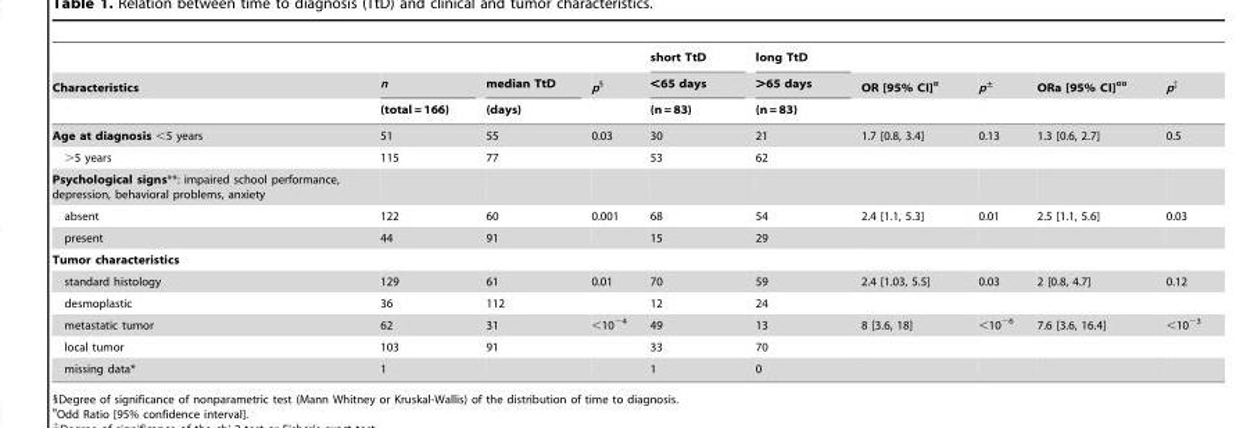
<table><thead><tr><td rowspan="3">Characteristics</td><td rowspan="3">n (total = 166)</td><td rowspan="3">median TtD (days)</td><td rowspan="3">p§</td><td rowspan="3">short TtD &lt;65 days (n = 83)</td><td rowspan="3">long TtD &gt;65 days (n = 83)</td><td rowspan="3">OR [95% CI]¤</td><td rowspan="3">p±</td><td rowspan="3">ORa [95% CI]¤¤</td><td rowspan="3">p‡</td></tr><tr></tr><tr></tr></thead><tbody><tr><td>Age at diagnosis &lt;5 years</td><td>51</td><td>55</td><td>0.03</td><td>30</td><td>21</td><td>1.7 [0.8, 3.4]</td><td>0.13</td><td>1.3 [0.6, 2.7]</td><td>0.5</td></tr><tr><td>&gt;5 years</td><td>115</td><td>77</td><td></td><td>53</td><td>62</td><td></td><td></td><td></td><td></td></tr><tr><td colspan="10">Psychological signs**: impaired school performance, depression, behavioral problems, anxiety</td></tr><tr><td>absent</td><td>122</td><td>60</td><td>0.001</td><td>68</td><td>54</td><td>2.4 [1.1, 5.3]</td><td>0.01</td><td>2.5 [1.1, 5.6]</td><td>0.03</td></tr><tr><td>present</td><td>44</td><td>91</td><td></td><td>15</td><td>29</td><td></td><td></td><td></td><td></td></tr><tr><td colspan="10">Tumor characteristics</td></tr><tr><td>standard histology</td><td>129</td><td>61</td><td>0.01</td><td>70</td><td>59</td><td>2.4 [1.03, 5.5]</td><td>0.03</td><td>2 [0.8, 4.7]</td><td>0.12</td></tr><tr><td>desmoplastic</td><td>36</td><td>112</td><td></td><td>12</td><td>24</td><td></td><td></td><td></td><td></td></tr><tr><td>metastatic tumor</td><td>62</td><td>31</td><td>&lt;10<sup>−4</sup></td><td>49</td><td>13</td><td>8 [3.6, 18]</td><td>&lt;10<sup>−6</sup></td><td>7.6 [3.6, 16.4]</td><td>&lt;10<sup>−3</sup></td></tr><tr><td>local tumor</td><td>103</td><td>91</td><td></td><td>33</td><td>70</td><td></td><td></td><td></td><td></td></tr><tr><td>missing data*</td><td>1</td><td></td><td></td><td>1</td><td>0</td><td></td><td></td><td></td><td></td></tr></tbody></table>